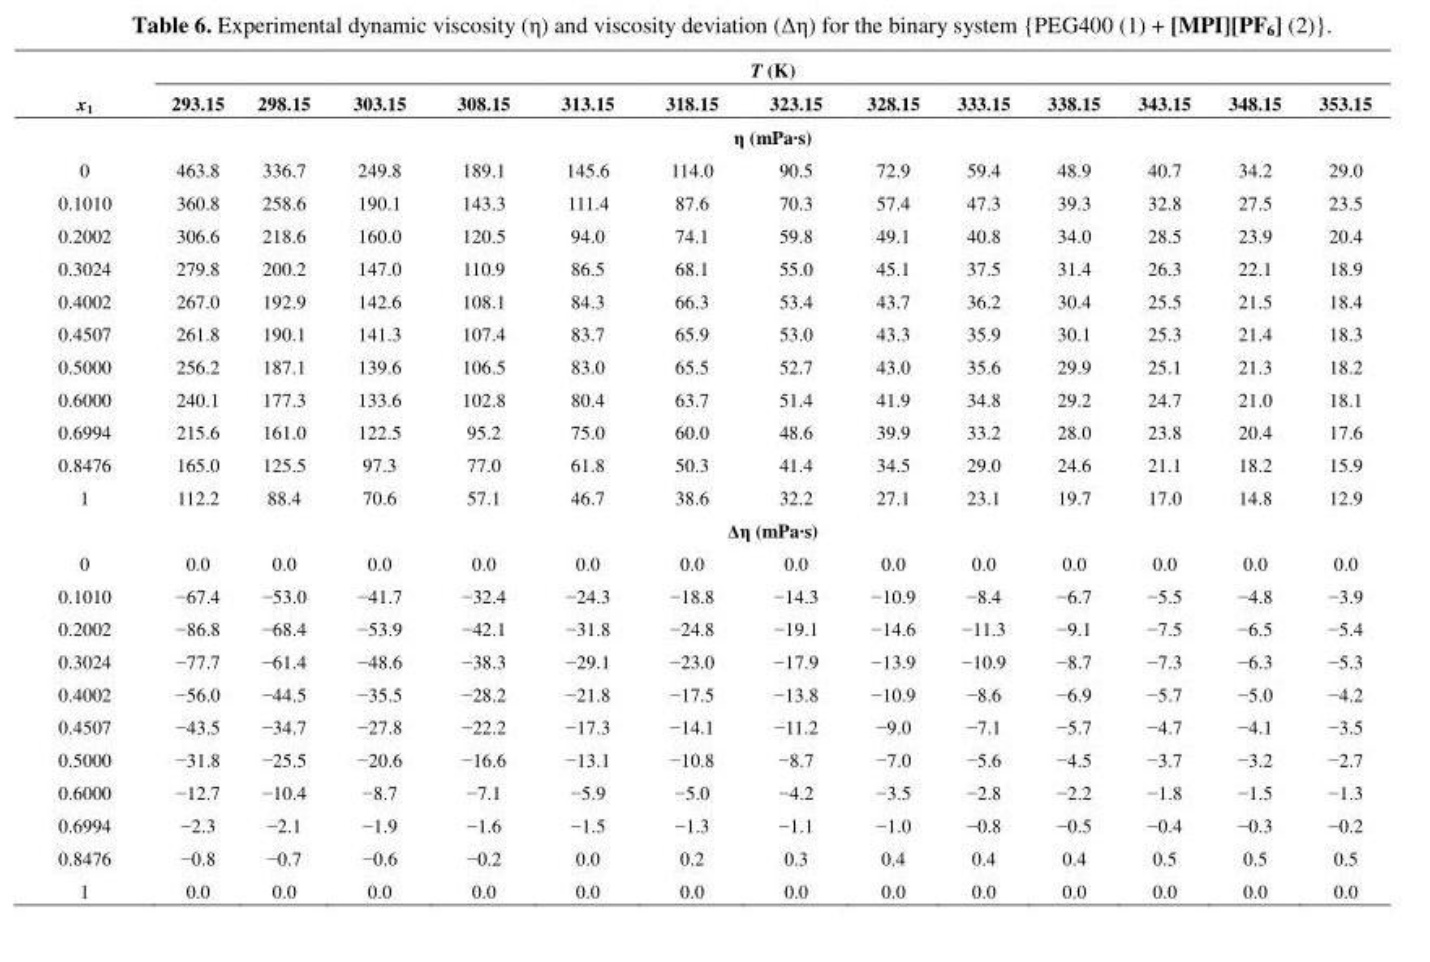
<table><thead><tr><td rowspan="2">x<sub>1</sub></td><td colspan="13">T (K)</td></tr><tr><td>293.15</td><td>298.15</td><td>303.15</td><td>308.15</td><td>313.15</td><td>318.15</td><td>323.15</td><td>328.15</td><td>333.15</td><td>338.15</td><td>343.15</td><td>348.15</td><td>353.15</td></tr></thead><tbody><tr><td colspan="14">η (mPa·s)</td></tr><tr><td>0</td><td>463.8</td><td>336.7</td><td>249.8</td><td>189.1</td><td>145.6</td><td>114.0</td><td>90.5</td><td>72.9</td><td>59.4</td><td>48.9</td><td>40.7</td><td>34.2</td><td>29.0</td></tr><tr><td>0.1010</td><td>360.8</td><td>258.6</td><td>190.1</td><td>143.3</td><td>111.4</td><td>87.6</td><td>70.3</td><td>57.4</td><td>47.3</td><td>39.3</td><td>32.8</td><td>27.5</td><td>23.5</td></tr><tr><td>0.2002</td><td>306.6</td><td>218.6</td><td>160.0</td><td>120.5</td><td>94.0</td><td>74.1</td><td>59.8</td><td>49.1</td><td>40.8</td><td>34.0</td><td>28.5</td><td>23.9</td><td>20.4</td></tr><tr><td>0.3024</td><td>279.8</td><td>200.2</td><td>147.0</td><td>110.9</td><td>86.5</td><td>68.1</td><td>55.0</td><td>45.1</td><td>37.5</td><td>31.4</td><td>26.3</td><td>22.1</td><td>18.9</td></tr><tr><td>0.4002</td><td>267.0</td><td>192.9</td><td>142.6</td><td>108.1</td><td>84.3</td><td>66.3</td><td>53.4</td><td>43.7</td><td>36.2</td><td>30.4</td><td>25.5</td><td>21.5</td><td>18.4</td></tr><tr><td>0.4507</td><td>261.8</td><td>190.1</td><td>141.3</td><td>107.4</td><td>83.7</td><td>65.9</td><td>53.0</td><td>43.3</td><td>35.9</td><td>30.1</td><td>25.3</td><td>21.4</td><td>18.3</td></tr><tr><td>0.5000</td><td>256.2</td><td>187.1</td><td>139.6</td><td>106.5</td><td>83.0</td><td>65.5</td><td>52.7</td><td>43.0</td><td>35.6</td><td>29.9</td><td>25.1</td><td>21.3</td><td>18.2</td></tr><tr><td>0.6000</td><td>240.1</td><td>177.3</td><td>133.6</td><td>102.8</td><td>80.4</td><td>63.7</td><td>51.4</td><td>41.9</td><td>34.8</td><td>29.2</td><td>24.7</td><td>21.0</td><td>18.1</td></tr><tr><td>0.6994</td><td>215.6</td><td>161.0</td><td>122.5</td><td>95.2</td><td>75.0</td><td>60.0</td><td>48.6</td><td>39.9</td><td>33.2</td><td>28.0</td><td>23.8</td><td>20.4</td><td>17.6</td></tr><tr><td>0.8476</td><td>165.0</td><td>125.5</td><td>97.3</td><td>77.0</td><td>61.8</td><td>50.3</td><td>41.4</td><td>34.5</td><td>29.0</td><td>24.6</td><td>21.1</td><td>18.2</td><td>15.9</td></tr><tr><td>1</td><td>112.2</td><td>88.4</td><td>70.6</td><td>57.1</td><td>46.7</td><td>38.6</td><td>32.2</td><td>27.1</td><td>23.1</td><td>19.7</td><td>17.0</td><td>14.8</td><td>12.9</td></tr><tr><td colspan="14">Δη (mPa·s)</td></tr><tr><td>0</td><td>0.0</td><td>0.0</td><td>0.0</td><td>0.0</td><td>0.0</td><td>0.0</td><td>0.0</td><td>0.0</td><td>0.0</td><td>0.0</td><td>0.0</td><td>0.0</td><td>0.0</td></tr><tr><td>0.1010</td><td>−67.4</td><td>−53.0</td><td>−41.7</td><td>−32.4</td><td>−24.3</td><td>−18.8</td><td>−14.3</td><td>−10.9</td><td>−8.4</td><td>−6.7</td><td>−5.5</td><td>−4.8</td><td>−3.9</td></tr><tr><td>0.2002</td><td>−86.8</td><td>−68.4</td><td>−53.9</td><td>−42.1</td><td>−31.8</td><td>−24.8</td><td>−19.1</td><td>−14.6</td><td>−11.3</td><td>−9.1</td><td>−7.5</td><td>−6.5</td><td>−5.4</td></tr><tr><td>0.3024</td><td>−77.7</td><td>−61.4</td><td>−48.6</td><td>−38.3</td><td>−29.1</td><td>−23.0</td><td>−17.9</td><td>−13.9</td><td>−10.9</td><td>−8.7</td><td>−7.3</td><td>−6.3</td><td>−5.3</td></tr><tr><td>0.4002</td><td>−56.0</td><td>−44.5</td><td>−35.5</td><td>−28.2</td><td>−21.8</td><td>−17.5</td><td>−13.8</td><td>−10.9</td><td>−8.6</td><td>−6.9</td><td>−5.7</td><td>−5.0</td><td>−4.2</td></tr><tr><td>0.4507</td><td>−43.5</td><td>−34.7</td><td>−27.8</td><td>−22.2</td><td>−17.3</td><td>−14.1</td><td>−11.2</td><td>−9.0</td><td>−7.1</td><td>−5.7</td><td>−4.7</td><td>−4.1</td><td>−3.5</td></tr><tr><td>0.5000</td><td>−31.8</td><td>−25.5</td><td>−20.6</td><td>−16.6</td><td>−13.1</td><td>−10.8</td><td>−8.7</td><td>−7.0</td><td>−5.6</td><td>−4.5</td><td>−3.7</td><td>−3.2</td><td>−2.7</td></tr><tr><td>0.6000</td><td>−12.7</td><td>−10.4</td><td>−8.7</td><td>−7.1</td><td>−5.9</td><td>−5.0</td><td>−4.2</td><td>−3.5</td><td>−2.8</td><td>−2.2</td><td>−1.8</td><td>−1.5</td><td>−1.3</td></tr><tr><td>0.6994</td><td>−2.3</td><td>−2.1</td><td>−1.9</td><td>−1.6</td><td>−1.5</td><td>−1.3</td><td>−1.1</td><td>−1.0</td><td>−0.8</td><td>−0.5</td><td>−0.4</td><td>−0.3</td><td>−0.2</td></tr><tr><td>0.8476</td><td>−0.8</td><td>−0.7</td><td>−0.6</td><td>−0.2</td><td>0.0</td><td>0.2</td><td>0.3</td><td>0.4</td><td>0.4</td><td>0.4</td><td>0.5</td><td>0.5</td><td>0.5</td></tr><tr><td>1</td><td>0.0</td><td>0.0</td><td>0.0</td><td>0.0</td><td>0.0</td><td>0.0</td><td>0.0</td><td>0.0</td><td>0.0</td><td>0.0</td><td>0.0</td><td>0.0</td><td>0.0</td></tr></tbody></table>